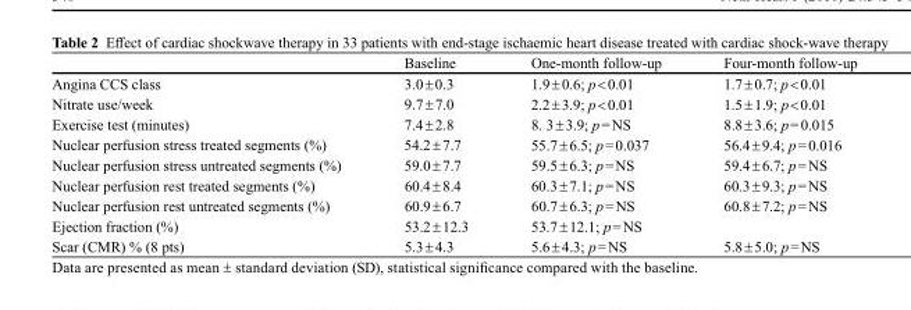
<table><thead><tr><td></td><td>Baseline</td><td>One-month follow-up</td><td>Four-month follow-up</td></tr></thead><tbody><tr><td>Angina CCS class</td><td>3.0 ± 0.3</td><td>1.9 ± 0.6; p &lt; 0.01</td><td>1.7 ± 0.7; p &lt; 0.01</td></tr><tr><td>Nitrate use/week</td><td>9.7 ± 7.0</td><td>2.2 ± 3.9; p &lt; 0.01</td><td>1.5 ± 1.9; p &lt; 0.01</td></tr><tr><td>Exercise test (minutes)</td><td>7.4 ± 2.8</td><td>8. 3 ± 3.9; p = NS</td><td>8.8 ± 3.6; p = 0.015</td></tr><tr><td>Nuclear perfusion stress treated segments (%)</td><td>54.2 ± 7.7</td><td>55.7 ± 6.5; p = 0.037</td><td>56.4 ± 9.4; p = 0.016</td></tr><tr><td>Nuclear perfusion stress untreated segments (%)</td><td>59.0 ± 7.7</td><td>59.5 ± 6.3; p = NS</td><td>59.4 ± 6.7; p = NS</td></tr><tr><td>Nuclear perfusion rest treated segments (%)</td><td>60.4 ± 8.4</td><td>60.3 ± 7.1; p = NS</td><td>60.3 ± 9.3; p = NS</td></tr><tr><td>Nuclear perfusion rest untreated segments (%)</td><td>60.9 ± 6.7</td><td>60.7 ± 6.3; p = NS</td><td>60.8 ± 7.2; p = NS</td></tr><tr><td>Ejection fraction (%)</td><td>53.2 ± 12.3</td><td>53.7 ± 12.1; p = NS</td><td></td></tr><tr><td>Scar (CMR) % (8 pts)</td><td>5.3 ± 4.3</td><td>5.6 ± 4.3; p = NS</td><td>5.8 ± 5.0; p = NS</td></tr></tbody></table>